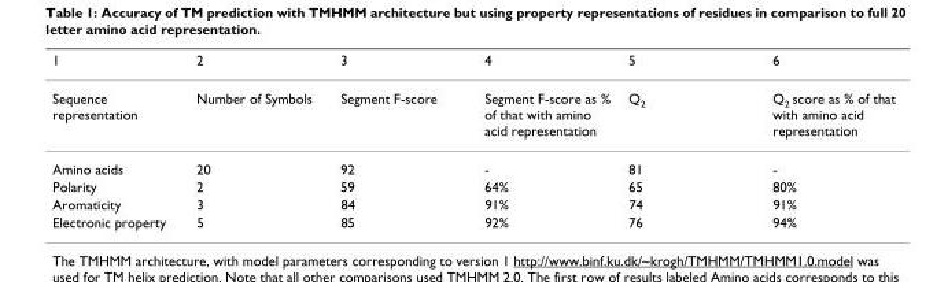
<table><thead><tr><td>1</td><td>2</td><td>3</td><td>4</td><td>5</td><td>6</td></tr></thead><tbody><tr><td>Sequence representation</td><td>Number of Symbols</td><td>Segment F-score</td><td>Segment F-score as % of that with amino acid representation</td><td>Q<sub>2</sub></td><td>Q<sub>2</sub> score as % of that with amino acid representation</td></tr><tr><td>Amino acids</td><td>20</td><td>92</td><td>-</td><td>81</td><td>-</td></tr><tr><td>Polarity</td><td>2</td><td>59</td><td>64%</td><td>65</td><td>80%</td></tr><tr><td>Aromaticity</td><td>3</td><td>84</td><td>91%</td><td>74</td><td>91%</td></tr><tr><td>Electronic property</td><td>5</td><td>85</td><td>92%</td><td>76</td><td>94%</td></tr></tbody></table>